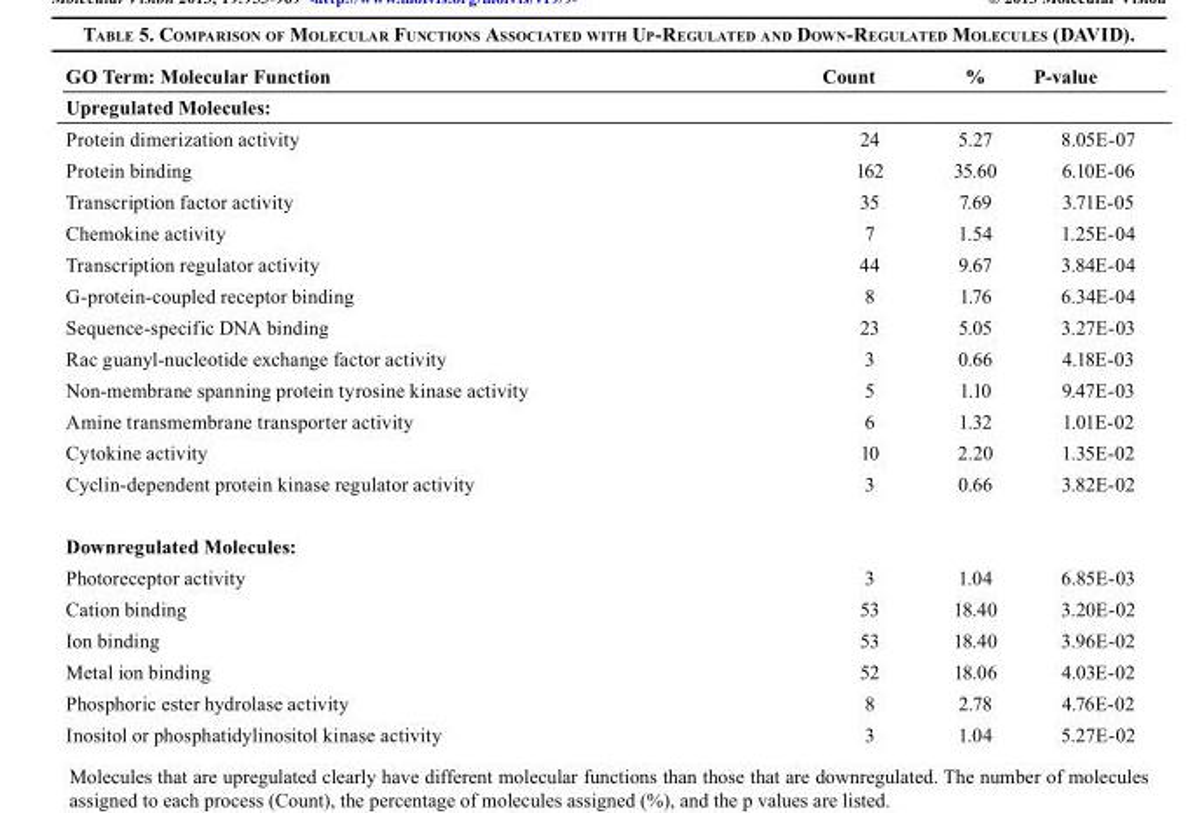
<table><thead><tr><td>GO Term: Molecular Function</td><td>Count</td><td>%</td><td>P-value</td></tr><tr><td colspan="4">Upregulated Molecules:</td></tr></thead><tbody><tr><td>Protein dimerization activity</td><td>24</td><td>5.27</td><td>8.05E-07</td></tr><tr><td>Protein binding</td><td>162</td><td>35.60</td><td>6.10E-06</td></tr><tr><td>Transcription factor activity</td><td>35</td><td>7.69</td><td>3.71E-05</td></tr><tr><td>Chemokine activity</td><td>7</td><td>1.54</td><td>1.25E-04</td></tr><tr><td>Transcription regulator activity</td><td>44</td><td>9.67</td><td>3.84E-04</td></tr><tr><td>G-protein-coupled receptor binding</td><td>8</td><td>1.76</td><td>6.34E-04</td></tr><tr><td>Sequence-specific DNA binding</td><td>23</td><td>5.05</td><td>3.27E-03</td></tr><tr><td>Rac guanyl-nucleotide exchange factor activity</td><td>3</td><td>0.66</td><td>4.18E-03</td></tr><tr><td>Non-membrane spanning protein tyrosine kinase activity</td><td>5</td><td>1.10</td><td>9.47E-03</td></tr><tr><td>Amine transmembrane transporter activity</td><td>6</td><td>1.32</td><td>1.01E-02</td></tr><tr><td>Cytokine activity</td><td>10</td><td>2.20</td><td>1.35E-02</td></tr><tr><td>Cyclin-dependent protein kinase regulator activity</td><td>3</td><td>0.66</td><td>3.82E-02</td></tr><tr><td colspan="4">Downregulated Molecules:</td></tr><tr><td>Photoreceptor activity</td><td>3</td><td>1.04</td><td>6.85E-03</td></tr><tr><td>Cation binding</td><td>53</td><td>18.40</td><td>3.20E-02</td></tr><tr><td>Ion binding</td><td>53</td><td>18.40</td><td>3.96E-02</td></tr><tr><td>Metal ion binding</td><td>52</td><td>18.06</td><td>4.03E-02</td></tr><tr><td>Phosphoric ester hydrolase activity</td><td>8</td><td>2.78</td><td>4.76E-02</td></tr><tr><td>Inositol or phosphatidylinositol kinase activity</td><td>3</td><td>1.04</td><td>5.27E-02</td></tr></tbody></table>